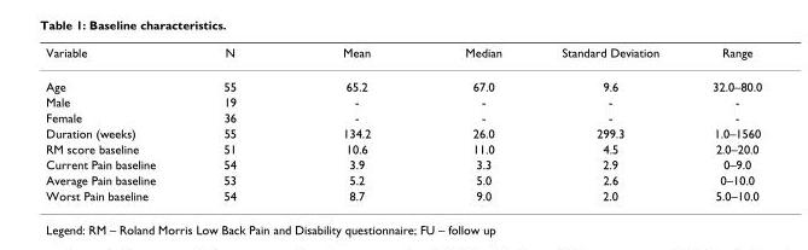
<table><thead><tr><td>Variable</td><td>N</td><td>Mean</td><td>Median</td><td>Standard Deviation</td><td>Range</td></tr></thead><tbody><tr><td>Age</td><td>55</td><td>65.2</td><td>67.0</td><td>9.6</td><td>32.0–80.0</td></tr><tr><td>Male</td><td>19</td><td>-</td><td>-</td><td>-</td><td>-</td></tr><tr><td>Female</td><td>36</td><td>-</td><td>-</td><td>-</td><td>-</td></tr><tr><td>Duration (weeks)</td><td>55</td><td>134.2</td><td>26.0</td><td>299.3</td><td>1.0–1560</td></tr><tr><td>RM score baseline</td><td>51</td><td>10.6</td><td>11.0</td><td>4.5</td><td>2.0–20.0</td></tr><tr><td>Current Pain baseline</td><td>54</td><td>3.9</td><td>3.3</td><td>2.9</td><td>0–9.0</td></tr><tr><td>Average Pain baseline</td><td>53</td><td>5.2</td><td>5.0</td><td>2.6</td><td>0–10.0</td></tr><tr><td>Worst Pain baseline</td><td>54</td><td>8.7</td><td>9.0</td><td>2.0</td><td>5.0–10.0</td></tr></tbody></table>